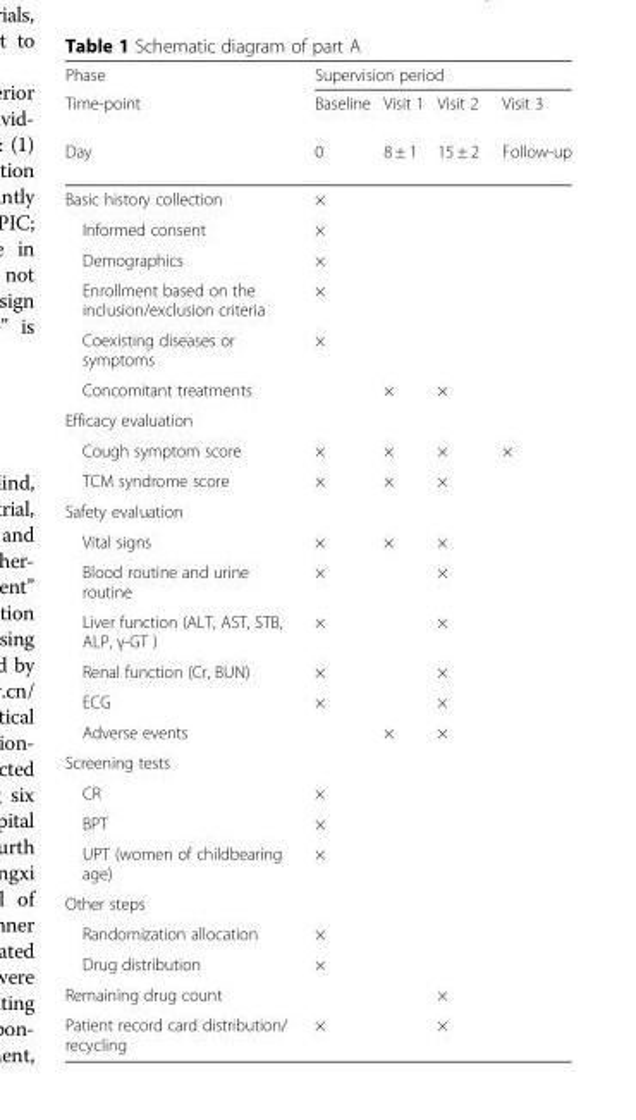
<table><thead><tr><td rowspan="3">Phase Time-point Day</td><td colspan="4">Supervision period</td></tr><tr><td rowspan="2">Baseline 0</td><td rowspan="2">Visit 1 8 ± 1</td><td rowspan="2">Visit 2 15 ± 2</td><td rowspan="2">Visit 3 Follow-up</td></tr><tr></tr></thead><tbody><tr><td>Basic history collection</td><td>×</td><td></td><td></td><td></td></tr><tr><td>Informed consent</td><td>×</td><td></td><td></td><td></td></tr><tr><td>Demographics</td><td>×</td><td></td><td></td><td></td></tr><tr><td>Enrollment based on the inclusion/exclusion criteria</td><td>×</td><td></td><td></td><td></td></tr><tr><td>Coexisting diseases or symptoms</td><td>×</td><td></td><td></td><td></td></tr><tr><td>Concomitant treatments</td><td></td><td>×</td><td>×</td><td></td></tr><tr><td colspan="5">Efficacy evaluation</td></tr><tr><td>Cough symptom score</td><td>×</td><td>×</td><td>×</td><td>×</td></tr><tr><td>TCM syndrome score</td><td>×</td><td>×</td><td>×</td><td></td></tr><tr><td colspan="5">Safety evaluation</td></tr><tr><td>Vital signs</td><td>×</td><td>×</td><td>×</td><td></td></tr><tr><td>Blood routine and urine routine</td><td>×</td><td></td><td>×</td><td></td></tr><tr><td>Liver function (ALT, AST, STB, ALP, γ-GT )</td><td>×</td><td></td><td>×</td><td></td></tr><tr><td>Renal function (Cr, BUN)</td><td>×</td><td></td><td>×</td><td></td></tr><tr><td>ECG</td><td>×</td><td></td><td>×</td><td></td></tr><tr><td>Adverse events</td><td></td><td>×</td><td>×</td><td></td></tr><tr><td colspan="5">Screening tests</td></tr><tr><td>CR</td><td>×</td><td></td><td></td><td></td></tr><tr><td>BPT</td><td>×</td><td></td><td></td><td></td></tr><tr><td>UPT (women of childbearing age)</td><td>×</td><td></td><td></td><td></td></tr><tr><td colspan="5">Other steps</td></tr><tr><td>Randomization allocation</td><td>×</td><td></td><td></td><td></td></tr><tr><td>Drug distribution</td><td>×</td><td></td><td></td><td></td></tr><tr><td>Remaining drug count</td><td></td><td></td><td>×</td><td></td></tr><tr><td>Patient record card distribution/ recycling</td><td>×</td><td></td><td>×</td><td></td></tr></tbody></table>